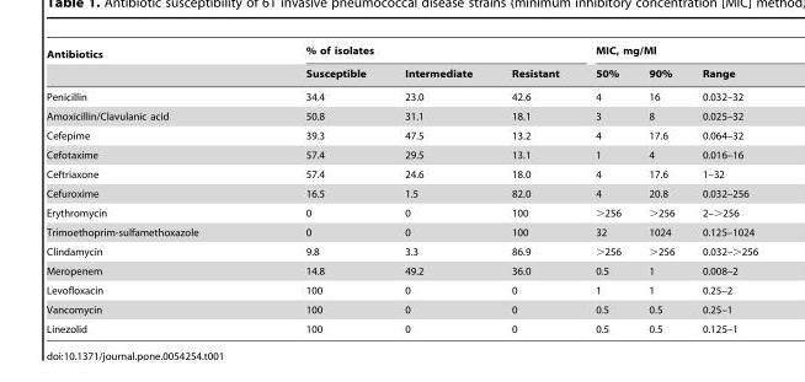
<table><thead><tr><td rowspan="2">Antibiotics</td><td colspan="3">% of isolates</td><td colspan="3">MIC, mg/Ml</td></tr><tr><td>Susceptible</td><td>Intermediate</td><td>Resistant</td><td>50%</td><td>90%</td><td>Range</td></tr></thead><tbody><tr><td>Penicillin</td><td>34.4</td><td>23.0</td><td>42.6</td><td>4</td><td>16</td><td>0.032–32</td></tr><tr><td>Amoxicillin/Clavulanic acid</td><td>50.8</td><td>31.1</td><td>18.1</td><td>3</td><td>8</td><td>0.025–32</td></tr><tr><td>Cefepime</td><td>39.3</td><td>47.5</td><td>13.2</td><td>4</td><td>17.6</td><td>0.064–32</td></tr><tr><td>Cefotaxime</td><td>57.4</td><td>29.5</td><td>13.1</td><td>1</td><td>4</td><td>0.016–16</td></tr><tr><td>Ceftriaxone</td><td>57.4</td><td>24.6</td><td>18.0</td><td>4</td><td>17.6</td><td>1–32</td></tr><tr><td>Cefuroxime</td><td>16.5</td><td>1.5</td><td>82.0</td><td>4</td><td>20.8</td><td>0.032–256</td></tr><tr><td>Erythromycin</td><td>0</td><td>0</td><td>100</td><td>&gt;256</td><td>&gt;256</td><td>2–&gt;256</td></tr><tr><td>Trimoethoprim-sulfamethoxazole</td><td>0</td><td>0</td><td>100</td><td>32</td><td>1024</td><td>0.125–1024</td></tr><tr><td>Clindamycin</td><td>9.8</td><td>3.3</td><td>86.9</td><td>&gt;256</td><td>&gt;256</td><td>0.032–&gt;256</td></tr><tr><td>Meropenem</td><td>14.8</td><td>49.2</td><td>36.0</td><td>0.5</td><td>1</td><td>0.008–2</td></tr><tr><td>Levofloxacin</td><td>100</td><td>0</td><td>0</td><td>1</td><td>1</td><td>0.25–2</td></tr><tr><td>Vancomycin</td><td>100</td><td>0</td><td>0</td><td>0.5</td><td>0.5</td><td>0.25–1</td></tr><tr><td>Linezolid</td><td>100</td><td>0</td><td>0</td><td>0.5</td><td>0.5</td><td>0.125–1</td></tr></tbody></table>